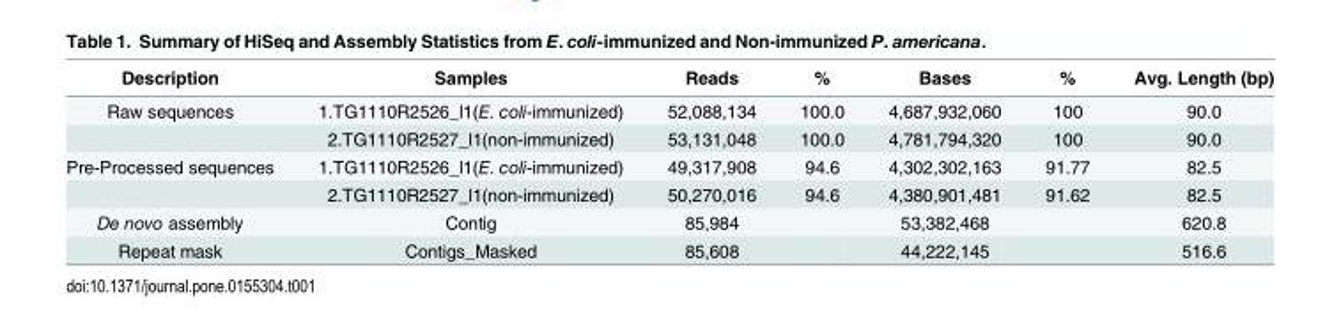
<table><thead><tr><td>Description</td><td>Samples</td><td>Reads</td><td>%</td><td>Bases</td><td>%</td><td>Avg. Length (bp)</td></tr></thead><tbody><tr><td rowspan="2">Raw sequences</td><td>1.TG1110R2526_l1(E. coli-immunized)</td><td>52,088,134</td><td>100.0</td><td>4,687,932,060</td><td>100</td><td>90.0</td></tr><tr><td>2.TG1110R2527_l1(non-immunized)</td><td>53,131,048</td><td>100.0</td><td>4,781,794,320</td><td>100</td><td>90.0</td></tr><tr><td rowspan="2">Pre-Processed sequences</td><td>1.TG1110R2526_l1(E. coli-immunized)</td><td>49,317,908</td><td>94.6</td><td>4,302,302,163</td><td>91.77</td><td>82.5</td></tr><tr><td>2.TG1110R2527_l1(non-immunized)</td><td>50,270,016</td><td>94.6</td><td>4,380,901,481</td><td>91.62</td><td>82.5</td></tr><tr><td>De novo assembly</td><td>Contig</td><td>85,984</td><td></td><td>53,382,468</td><td></td><td>620.8</td></tr><tr><td>Repeat mask</td><td>Contigs_Masked</td><td>85,608</td><td></td><td>44,222,145</td><td></td><td>516.6</td></tr></tbody></table>